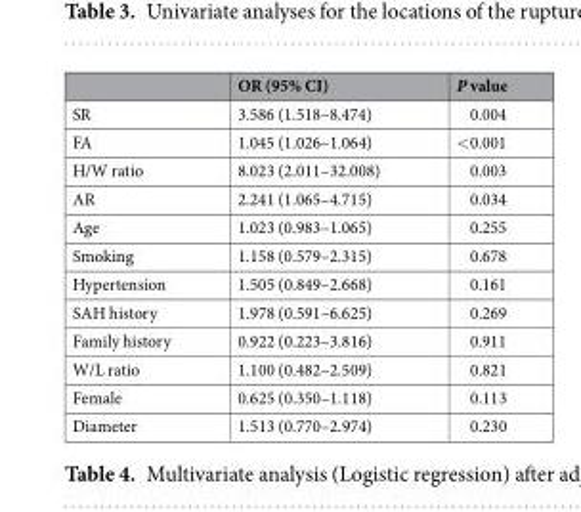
<table><thead><tr><td></td><td>OR (95% CI)</td><td>P value</td></tr></thead><tbody><tr><td>SR</td><td>3.586 (1.518–8.474)</td><td>0.004</td></tr><tr><td>FA</td><td>1.045 (1.026–1.064)</td><td>&lt;0.001</td></tr><tr><td>H/W ratio</td><td>8.023 (2.011–32.008)</td><td>0.003</td></tr><tr><td>AR</td><td>2.241 (1.065–4.715)</td><td>0.034</td></tr><tr><td>Age</td><td>1.023 (0.983–1.065)</td><td>0.255</td></tr><tr><td>Smoking</td><td>1.158 (0.579–2.315)</td><td>0.678</td></tr><tr><td>Hypertension</td><td>1.505 (0.849–2.668)</td><td>0.161</td></tr><tr><td>SAH history</td><td>1.978 (0.591–6.625)</td><td>0.269</td></tr><tr><td>Family history</td><td>0.922 (0.223–3.816)</td><td>0.911</td></tr><tr><td>W/L ratio</td><td>1.100 (0.482–2.509)</td><td>0.821</td></tr><tr><td>Female</td><td>0.625 (0.350–1.118)</td><td>0.113</td></tr><tr><td>Diameter</td><td>1.513 (0.770–2.974)</td><td>0.230</td></tr></tbody></table>